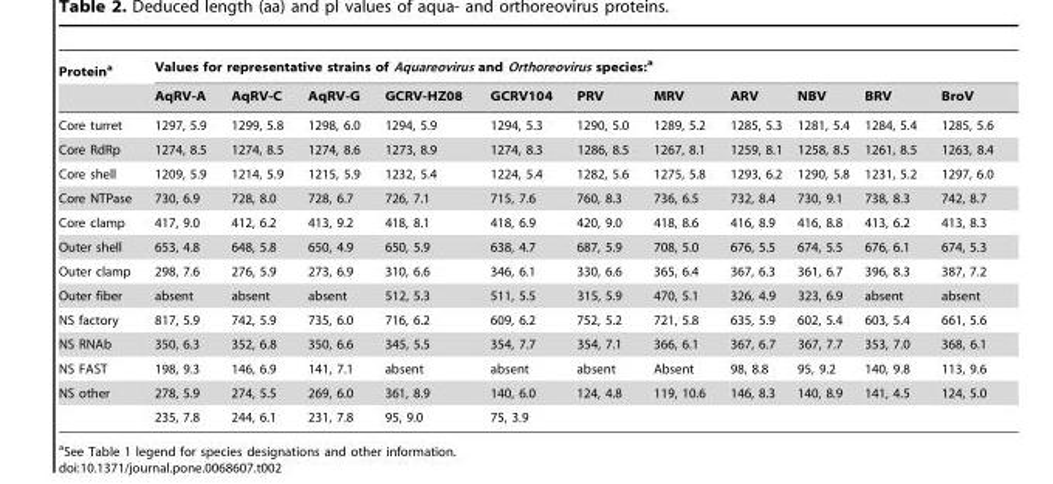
<table><thead><tr><td rowspan="2">Protein<sup>a</sup></td><td colspan="11">Values for representative strains of Aquareovirus and Orthoreovirus species:<sup>a</sup></td></tr><tr><td>AqRV-A</td><td>AqRV-C</td><td>AqRV-G</td><td>GCRV-HZ08</td><td>GCRV104</td><td>PRV</td><td>MRV</td><td>ARV</td><td>NBV</td><td>BRV</td><td>BroV</td></tr></thead><tbody><tr><td>Core turret</td><td>1297, 5.9</td><td>1299, 5.8</td><td>1298, 6.0</td><td>1294, 5.9</td><td>1294, 5.3</td><td>1290, 5.0</td><td>1289, 5.2</td><td>1285, 5.3</td><td>1281, 5.4</td><td>1284, 5.4</td><td>1285, 5.6</td></tr><tr><td>Core RdRp</td><td>1274, 8.5</td><td>1274, 8.5</td><td>1274, 8.6</td><td>1273, 8.9</td><td>1274, 8.3</td><td>1286, 8.5</td><td>1267, 8.1</td><td>1259, 8.1</td><td>1258, 8.5</td><td>1261, 8.5</td><td>1263, 8.4</td></tr><tr><td>Core shell</td><td>1209, 5.9</td><td>1214, 5.9</td><td>1215, 5.9</td><td>1232, 5.4</td><td>1224, 5.4</td><td>1282, 5.6</td><td>1275, 5.8</td><td>1293, 6.2</td><td>1290, 5.8</td><td>1231, 5.2</td><td>1297, 6.0</td></tr><tr><td>Core NTPase</td><td>730, 6.9</td><td>728, 8.0</td><td>728, 6.7</td><td>726, 7.1</td><td>715, 7.6</td><td>760, 8.3</td><td>736, 6.5</td><td>732, 8.4</td><td>730, 9.1</td><td>738, 8.3</td><td>742, 8.7</td></tr><tr><td>Core clamp</td><td>417, 9.0</td><td>412, 6.2</td><td>413, 9.2</td><td>418, 8.1</td><td>418, 6.9</td><td>420, 9.0</td><td>418, 8.6</td><td>416, 8.9</td><td>416, 8.8</td><td>413, 6.2</td><td>413, 8.3</td></tr><tr><td>Outer shell</td><td>653, 4.8</td><td>648, 5.8</td><td>650, 4.9</td><td>650, 5.9</td><td>638, 4.7</td><td>687, 5.9</td><td>708, 5.0</td><td>676, 5.5</td><td>674, 5.5</td><td>676, 6.1</td><td>674, 5.3</td></tr><tr><td>Outer clamp</td><td>298, 7.6</td><td>276, 5.9</td><td>273, 6.9</td><td>310, 6.6</td><td>346, 6.1</td><td>330, 6.6</td><td>365, 6.4</td><td>367, 6.3</td><td>361, 6.7</td><td>396, 8.3</td><td>387, 7.2</td></tr><tr><td>Outer fiber</td><td>absent</td><td>absent</td><td>absent</td><td>512, 5.3</td><td>511, 5.5</td><td>315, 5.9</td><td>470, 5.1</td><td>326, 4.9</td><td>323, 6.9</td><td>absent</td><td>absent</td></tr><tr><td>NS factory</td><td>817, 5.9</td><td>742, 5.9</td><td>735, 6.0</td><td>716, 6.2</td><td>609, 6.2</td><td>752, 5.2</td><td>721, 5.8</td><td>635, 5.9</td><td>602, 5.4</td><td>603, 5.4</td><td>661, 5.6</td></tr><tr><td>NS RNAb</td><td>350, 6.3</td><td>352, 6.8</td><td>350, 6.6</td><td>345, 5.5</td><td>354, 7.7</td><td>354, 7.1</td><td>366, 6.1</td><td>367, 6.7</td><td>367, 7.7</td><td>353, 7.0</td><td>368, 6.1</td></tr><tr><td>NS FAST</td><td>198, 9.3</td><td>146, 6.9</td><td>141, 7.1</td><td>absent</td><td>absent</td><td>absent</td><td>Absent</td><td>98, 8.8</td><td>95, 9.2</td><td>140, 9.8</td><td>113, 9.6</td></tr><tr><td rowspan="2">NS other</td><td>278, 5.9</td><td>274, 5.5</td><td>269, 6.0</td><td>361, 8.9</td><td>140, 6.0</td><td>124, 4.8</td><td>119, 10.6</td><td>146, 8.3</td><td>140, 8.9</td><td>141, 4.5</td><td>124, 5.0</td></tr><tr><td>235, 7.8</td><td>244, 6.1</td><td>231, 7.8</td><td>95, 9.0</td><td>75, 3.9</td><td></td><td></td><td></td><td></td><td></td><td></td></tr></tbody></table>